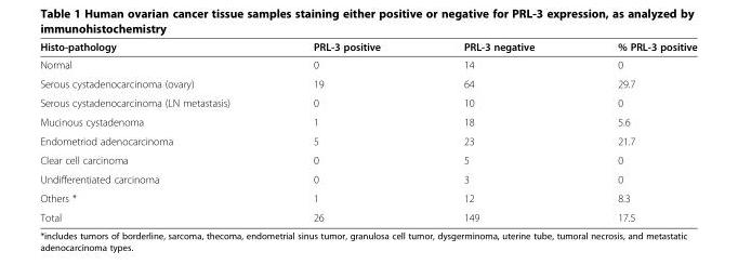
<table><thead><tr><td>Histo-pathology</td><td>PRL-3 positive</td><td>PRL-3 negative</td><td>% PRL-3 positive</td></tr></thead><tbody><tr><td>Normal</td><td>0</td><td>14</td><td>0</td></tr><tr><td>Serous cystadenocarcinoma (ovary)</td><td>19</td><td>64</td><td>29.7</td></tr><tr><td>Serous cystadenocarcinoma (LN metastasis)</td><td>0</td><td>10</td><td>0</td></tr><tr><td>Mucinous cystadenoma</td><td>1</td><td>18</td><td>5.6</td></tr><tr><td>Endometriod adenocarcinoma</td><td>5</td><td>23</td><td>21.7</td></tr><tr><td>Clear cell carcinoma</td><td>0</td><td>5</td><td>0</td></tr><tr><td>Undifferentiated carcinoma</td><td>0</td><td>3</td><td>0</td></tr><tr><td>Others *</td><td>1</td><td>12</td><td>8.3</td></tr><tr><td>Total</td><td>26</td><td>149</td><td>17.5</td></tr></tbody></table>